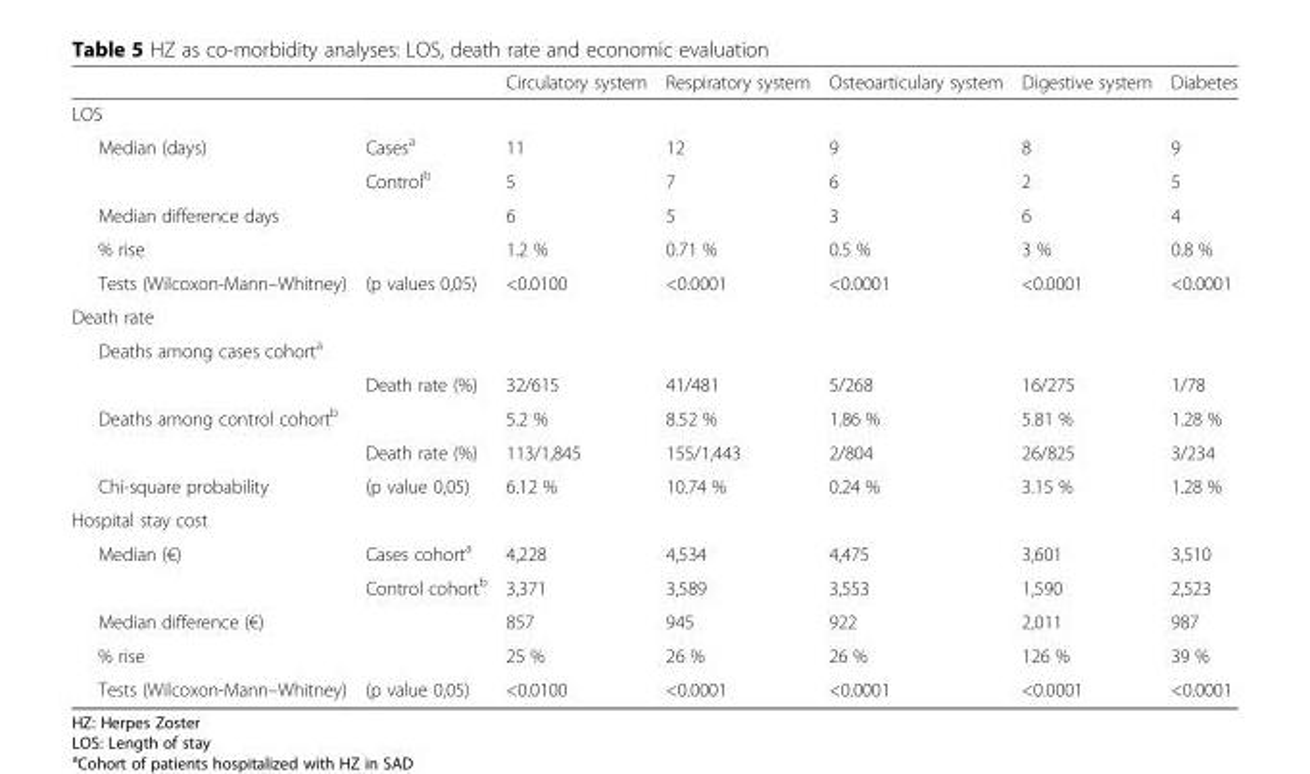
<table><thead><tr><td></td><td></td><td>Circulatory system</td><td>Respiratory system</td><td>Osteoarticulary system</td><td>Digestive system</td><td>Diabetes</td></tr></thead><tbody><tr><td colspan="7">LOS</td></tr><tr><td rowspan="2">Median (days)</td><td>Cases<sup>a</sup></td><td>11</td><td>12</td><td>9</td><td>8</td><td>9</td></tr><tr><td>Control<sup>b</sup></td><td>5</td><td>7</td><td>6</td><td>2</td><td>5</td></tr><tr><td colspan="2">Median difference days</td><td>6</td><td>5</td><td>3</td><td>6</td><td>4</td></tr><tr><td colspan="2">% rise</td><td>1.2 %</td><td>0.71 %</td><td>0.5 %</td><td>3 %</td><td>0.8 %</td></tr><tr><td>Tests (Wilcoxon-Mann–Whitney)</td><td>(p values 0,05)</td><td>&lt;0.0100</td><td>&lt;0.0001</td><td>&lt;0.0001</td><td>&lt;0.0001</td><td>&lt;0.0001</td></tr><tr><td colspan="7">Death rate</td></tr><tr><td colspan="7">Deaths among cases cohort<sup>a</sup></td></tr><tr><td></td><td>Death rate (%)</td><td>32/615</td><td>41/481</td><td>5/268</td><td>16/275</td><td>1/78</td></tr><tr><td colspan="2">Deaths among control cohort<sup>b</sup></td><td>5.2 %</td><td>8.52 %</td><td>1.86 %</td><td>5.81 %</td><td>1.28 %</td></tr><tr><td></td><td>Death rate (%)</td><td>113/1,845</td><td>155/1,443</td><td>2/804</td><td>26/825</td><td>3/234</td></tr><tr><td>Chi-square probability</td><td>(p value 0,05)</td><td>6.12 %</td><td>10.74 %</td><td>0.24 %</td><td>3.15 %</td><td>1.28 %</td></tr><tr><td colspan="7">Hospital stay cost</td></tr><tr><td rowspan="2">Median (€)</td><td>Cases cohort<sup>a</sup></td><td>4,228</td><td>4,534</td><td>4,475</td><td>3,601</td><td>3,510</td></tr><tr><td>Control cohort<sup>b</sup></td><td>3,371</td><td>3,589</td><td>3,553</td><td>1,590</td><td>2,523</td></tr><tr><td colspan="2">Median difference (€)</td><td>857</td><td>945</td><td>922</td><td>2,011</td><td>987</td></tr><tr><td colspan="2">% rise</td><td>25 %</td><td>26 %</td><td>26 %</td><td>126 %</td><td>39 %</td></tr><tr><td>Tests (Wilcoxon-Mann–Whitney)</td><td>(p value 0,05)</td><td>&lt;0.0100</td><td>&lt;0.0001</td><td>&lt;0.0001</td><td>&lt;0.0001</td><td>&lt;0.0001</td></tr></tbody></table>